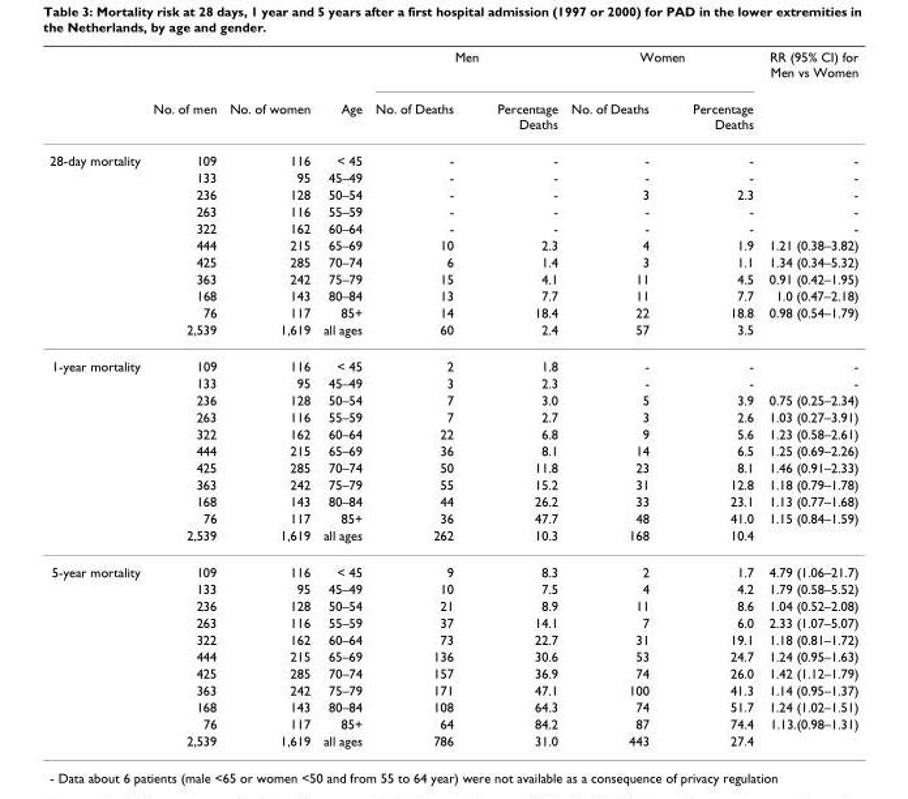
<table><thead><tr><td rowspan="2"></td><td rowspan="2">No. of men</td><td rowspan="2">No. of women</td><td rowspan="2">Age</td><td colspan="2">Men</td><td colspan="2">Women</td><td rowspan="2">RR (95% CI) for Men vs Women</td></tr><tr><td>No. of Deaths</td><td>Percentage Deaths</td><td>No. of Deaths</td><td>Percentage Deaths</td></tr></thead><tbody><tr><td rowspan="11">28-day mortality</td><td>109</td><td>116</td><td>&lt; 45</td><td>-</td><td>-</td><td>-</td><td>-</td><td>-</td></tr><tr><td>133</td><td>95</td><td>45–49</td><td>-</td><td>-</td><td>-</td><td>-</td><td>-</td></tr><tr><td>236</td><td>128</td><td>50–54</td><td>-</td><td>-</td><td>3</td><td>2.3</td><td>-</td></tr><tr><td>263</td><td>116</td><td>55–59</td><td>-</td><td>-</td><td>-</td><td>-</td><td>-</td></tr><tr><td>322</td><td>162</td><td>60–64</td><td>-</td><td>-</td><td>-</td><td>-</td><td>-</td></tr><tr><td>444</td><td>215</td><td>65–69</td><td>10</td><td>2.3</td><td>4</td><td>1.9</td><td>1.21 (0.38–3.82)</td></tr><tr><td>425</td><td>285</td><td>70–74</td><td>6</td><td>1.4</td><td>3</td><td>1.1</td><td>1.34 (0.34–5.32)</td></tr><tr><td>363</td><td>242</td><td>75–79</td><td>15</td><td>4.1</td><td>11</td><td>4.5</td><td>0.91 (0.42–1.95)</td></tr><tr><td>168</td><td>143</td><td>80–84</td><td>13</td><td>7.7</td><td>11</td><td>7.7</td><td>1.0 (0.47–2.18)</td></tr><tr><td>76</td><td>117</td><td>85+</td><td>14</td><td>18.4</td><td>22</td><td>18.8</td><td>0.98 (0.54–1.79)</td></tr><tr><td>2,539</td><td>1,619</td><td>all ages</td><td>60</td><td>2.4</td><td>57</td><td>3.5</td><td></td></tr><tr><td rowspan="11">1-year mortality</td><td>109</td><td>116</td><td>&lt; 45</td><td>2</td><td>1.8</td><td>-</td><td>-</td><td>-</td></tr><tr><td>133</td><td>95</td><td>45–49</td><td>3</td><td>2.3</td><td>-</td><td>-</td><td>-</td></tr><tr><td>236</td><td>128</td><td>50–54</td><td>7</td><td>3.0</td><td>5</td><td>3.9</td><td>0.75 (0.25–2.34)</td></tr><tr><td>263</td><td>116</td><td>55–59</td><td>7</td><td>2.7</td><td>3</td><td>2.6</td><td>1.03 (0.27–3.91)</td></tr><tr><td>322</td><td>162</td><td>60–64</td><td>22</td><td>6.8</td><td>9</td><td>5.6</td><td>1.23 (0.58–2.61)</td></tr><tr><td>444</td><td>215</td><td>65–69</td><td>36</td><td>8.1</td><td>14</td><td>6.5</td><td>1.25 (0.69–2.26)</td></tr><tr><td>425</td><td>285</td><td>70–74</td><td>50</td><td>11.8</td><td>23</td><td>8.1</td><td>1.46 (0.91–2.33)</td></tr><tr><td>363</td><td>242</td><td>75–79</td><td>55</td><td>15.2</td><td>31</td><td>12.8</td><td>1.18 (0.79–1.78)</td></tr><tr><td>168</td><td>143</td><td>80–84</td><td>44</td><td>26.2</td><td>33</td><td>23.1</td><td>1.13 (0.77–1.68)</td></tr><tr><td>76</td><td>117</td><td>85+</td><td>36</td><td>47.7</td><td>48</td><td>41.0</td><td>1.15 (0.84–1.59)</td></tr><tr><td>2,539</td><td>1,619</td><td>all ages</td><td>262</td><td>10.3</td><td>168</td><td>10.4</td><td></td></tr><tr><td rowspan="11">5-year mortality</td><td>109</td><td>116</td><td>&lt; 45</td><td>9</td><td>8.3</td><td>2</td><td>1.7</td><td>4.79 (1.06–21.7)</td></tr><tr><td>133</td><td>95</td><td>45–49</td><td>10</td><td>7.5</td><td>4</td><td>4.2</td><td>1.79 (0.58–5.52)</td></tr><tr><td>236</td><td>128</td><td>50–54</td><td>21</td><td>8.9</td><td>11</td><td>8.6</td><td>1.04 (0.52–2.08)</td></tr><tr><td>263</td><td>116</td><td>55–59</td><td>37</td><td>14.1</td><td>7</td><td>6.0</td><td>2.33 (1.07–5.07)</td></tr><tr><td>322</td><td>162</td><td>60–64</td><td>73</td><td>22.7</td><td>31</td><td>19.1</td><td>1.18 (0.81–1.72)</td></tr><tr><td>444</td><td>215</td><td>65–69</td><td>136</td><td>30.6</td><td>53</td><td>24.7</td><td>1.24 (0.95–1.63)</td></tr><tr><td>425</td><td>285</td><td>70–74</td><td>157</td><td>36.9</td><td>74</td><td>26.0</td><td>1.42 (1.12–1.79)</td></tr><tr><td>363</td><td>242</td><td>75–79</td><td>171</td><td>47.1</td><td>100</td><td>41.3</td><td>1.14 (0.95–1.37)</td></tr><tr><td>168</td><td>143</td><td>80–84</td><td>108</td><td>64.3</td><td>74</td><td>51.7</td><td>1.24 (1.02–1.51)</td></tr><tr><td>76</td><td>117</td><td>85+</td><td>64</td><td>84.2</td><td>87</td><td>74.4</td><td>1.13.(0.98–1.31)</td></tr><tr><td>2,539</td><td>1,619</td><td>all ages</td><td>786</td><td>31.0</td><td>443</td><td>27.4</td><td></td></tr></tbody></table>